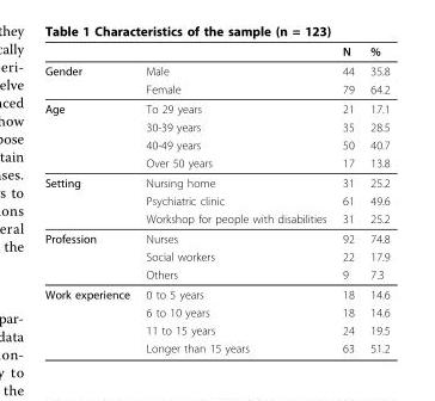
<table><thead><tr><td></td><td></td><td>N</td><td>%</td></tr></thead><tbody><tr><td rowspan="2">Gender</td><td>Male</td><td>44</td><td>35.8</td></tr><tr><td>Female</td><td>79</td><td>64.2</td></tr><tr><td rowspan="4">Age</td><td>To 29 years</td><td>21</td><td>17.1</td></tr><tr><td>30-39 years</td><td>35</td><td>28.5</td></tr><tr><td>40-49 years</td><td>50</td><td>40.7</td></tr><tr><td>Over 50 years</td><td>17</td><td>13.8</td></tr><tr><td rowspan="3">Setting</td><td>Nursing home</td><td>31</td><td>25.2</td></tr><tr><td>Psychiatric clinic</td><td>61</td><td>49.6</td></tr><tr><td>Workshop for people with disabilities</td><td>31</td><td>25.2</td></tr><tr><td rowspan="3">Profession</td><td>Nurses</td><td>92</td><td>74.8</td></tr><tr><td>Social workers</td><td>22</td><td>17.9</td></tr><tr><td>Others</td><td>9</td><td>7.3</td></tr><tr><td rowspan="4">Work experience</td><td>0 to 5 years</td><td>18</td><td>14.6</td></tr><tr><td>6 to 10 years</td><td>18</td><td>14.6</td></tr><tr><td>11 to 15 years</td><td>24</td><td>19.5</td></tr><tr><td>Longer than 15 years</td><td>63</td><td>51.2</td></tr></tbody></table>